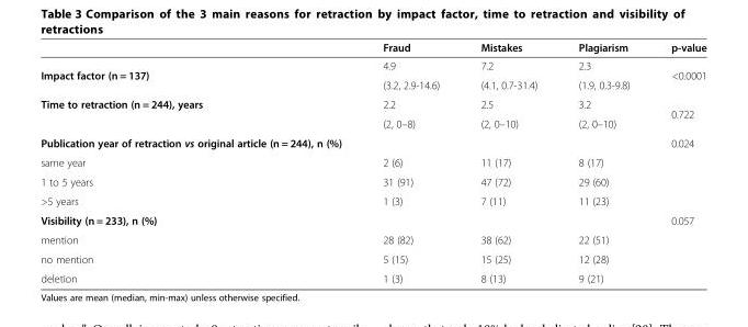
<table><thead><tr><td></td><td>Fraud</td><td>Mistakes</td><td>Plagiarism</td><td>p-value</td></tr></thead><tbody><tr><td rowspan="2">Impact factor (n = 137)</td><td>4.9</td><td>7.2</td><td>2.3</td><td rowspan="2">&lt;0.0001</td></tr><tr><td>(3.2, 2.9-14.6)</td><td>(4.1, 0.7-31.4)</td><td>(1.9, 0.3-9.8)</td></tr><tr><td rowspan="2">Time to retraction (n = 244), years</td><td>2.2</td><td>2.5</td><td>3.2</td><td rowspan="2">0.722</td></tr><tr><td>(2, 0–8)</td><td>(2, 0–10)</td><td>(2, 0–10)</td></tr><tr><td>Publication year of retraction vs original article (n = 244), n (%)</td><td></td><td></td><td></td><td>0.024</td></tr><tr><td>same year</td><td>2 (6)</td><td>11 (17)</td><td>8 (17)</td><td></td></tr><tr><td>1 to 5 years</td><td>31 (91)</td><td>47 (72)</td><td>29 (60)</td><td></td></tr><tr><td>&gt;5 years</td><td>1 (3)</td><td>7 (11)</td><td>11 (23)</td><td></td></tr><tr><td>Visibility (n = 233), n (%)</td><td></td><td></td><td></td><td>0.057</td></tr><tr><td>mention</td><td>28 (82)</td><td>38 (62)</td><td>22 (51)</td><td></td></tr><tr><td>no mention</td><td>5 (15)</td><td>15 (25)</td><td>12 (28)</td><td></td></tr><tr><td>deletion</td><td>1 (3)</td><td>8 (13)</td><td>9 (21)</td><td></td></tr></tbody></table>